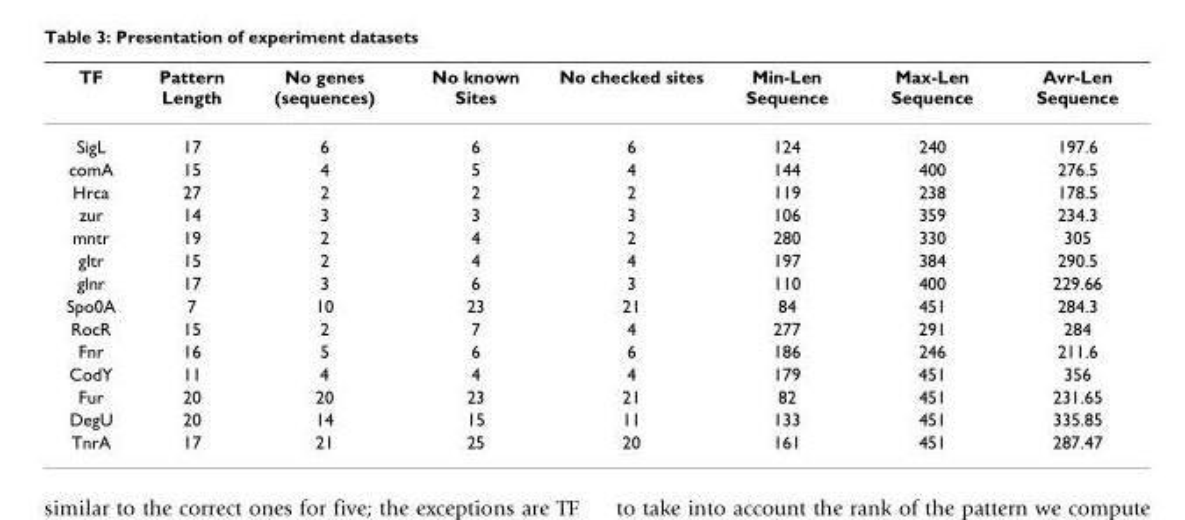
<table><thead><tr><td>TF</td><td>Pattern Length</td><td>No genes (sequences)</td><td>No known Sites</td><td>No checked sites</td><td>Min-Len Sequence</td><td>Max-Len Sequence</td><td>Avr-Len Sequence</td></tr></thead><tbody><tr><td>SigL</td><td>17</td><td>6</td><td>6</td><td>6</td><td>124</td><td>240</td><td>197.6</td></tr><tr><td>comA</td><td>15</td><td>4</td><td>5</td><td>4</td><td>144</td><td>400</td><td>276.5</td></tr><tr><td>Hrca</td><td>27</td><td>2</td><td>2</td><td>2</td><td>119</td><td>238</td><td>178.5</td></tr><tr><td>zur</td><td>14</td><td>3</td><td>3</td><td>3</td><td>106</td><td>359</td><td>234.3</td></tr><tr><td>mntr</td><td>19</td><td>2</td><td>4</td><td>2</td><td>280</td><td>330</td><td>305</td></tr><tr><td>gltr</td><td>15</td><td>2</td><td>4</td><td>4</td><td>197</td><td>384</td><td>290.5</td></tr><tr><td>glnr</td><td>17</td><td>3</td><td>6</td><td>3</td><td>110</td><td>400</td><td>229.66</td></tr><tr><td>Spo0A</td><td>7</td><td>10</td><td>23</td><td>21</td><td>84</td><td>451</td><td>284.3</td></tr><tr><td>RocR</td><td>15</td><td>2</td><td>7</td><td>4</td><td>277</td><td>291</td><td>284</td></tr><tr><td>Fnr</td><td>16</td><td>5</td><td>6</td><td>6</td><td>186</td><td>246</td><td>211.6</td></tr><tr><td>CodY</td><td>11</td><td>4</td><td>4</td><td>4</td><td>179</td><td>451</td><td>356</td></tr><tr><td>Fur</td><td>20</td><td>20</td><td>23</td><td>21</td><td>82</td><td>451</td><td>231.65</td></tr><tr><td>DegU</td><td>20</td><td>14</td><td>15</td><td>11</td><td>133</td><td>451</td><td>335.85</td></tr><tr><td>TnrA</td><td>17</td><td>21</td><td>25</td><td>20</td><td>161</td><td>451</td><td>287.47</td></tr></tbody></table>